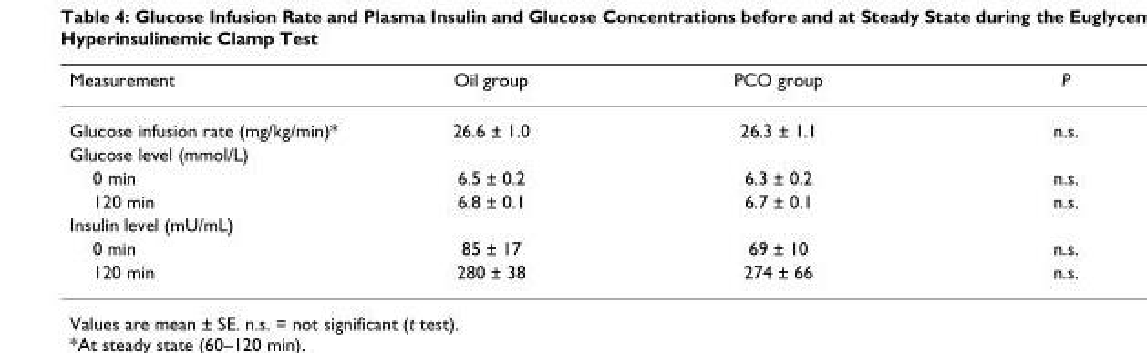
<table><thead><tr><td>Measurement</td><td>Oil group</td><td>PCO group</td><td>P</td></tr></thead><tbody><tr><td>Glucose infusion rate (mg/kg/min)*</td><td>26.6 ± 1.0</td><td>26.3 ± 1.1</td><td>n.s.</td></tr><tr><td colspan="4">Glucose level (mmol/L)</td></tr><tr><td>0 min</td><td>6.5 ± 0.2</td><td>6.3 ± 0.2</td><td>n.s.</td></tr><tr><td>120 min</td><td>6.8 ± 0.1</td><td>6.7 ± 0.1</td><td>n.s.</td></tr><tr><td colspan="4">Insulin level (mU/mL)</td></tr><tr><td>0 min</td><td>85 ± 17</td><td>69 ± 10</td><td>n.s.</td></tr><tr><td>120 min</td><td>280 ± 38</td><td>274 ± 66</td><td>n.s.</td></tr></tbody></table>